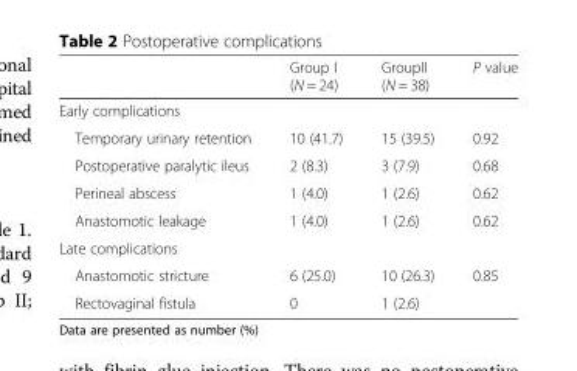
<table><thead><tr><td></td><td>Group I (N = 24)</td><td>GroupII (N = 38)</td><td>P value</td></tr></thead><tbody><tr><td colspan="4">Early complications</td></tr><tr><td>Temporary urinary retention</td><td>10 (41.7)</td><td>15 (39.5)</td><td>0.92</td></tr><tr><td>Postoperative paralytic ileus</td><td>2 (8.3)</td><td>3 (7.9)</td><td>0.68</td></tr><tr><td>Perineal abscess</td><td>1 (4.0)</td><td>1 (2.6)</td><td>0.62</td></tr><tr><td>Anastomotic leakage</td><td>1 (4.0)</td><td>1 (2.6)</td><td>0.62</td></tr><tr><td colspan="4">Late complications</td></tr><tr><td>Anastomotic stricture</td><td>6 (25.0)</td><td>10 (26.3)</td><td>0.85</td></tr><tr><td>Rectovaginal fistula</td><td>0</td><td>1 (2.6)</td><td></td></tr></tbody></table>